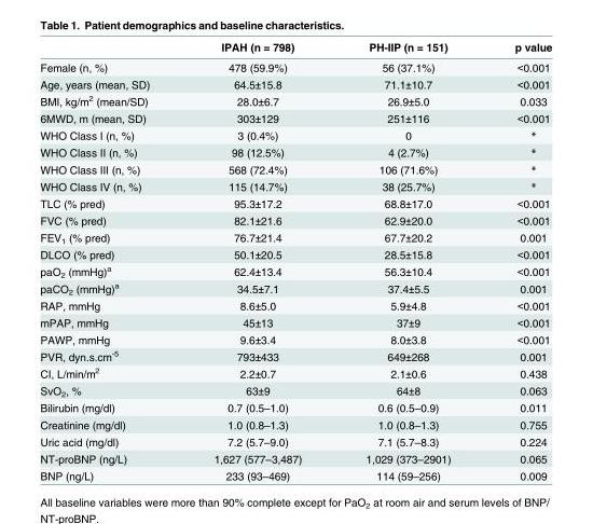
<table><thead><tr><td></td><td>IPAH (n = 798)</td><td>PH-IIP (n = 151)</td><td>p value</td></tr></thead><tbody><tr><td>Female (n, %)</td><td>478 (59.9%)</td><td>56 (37.1%)</td><td>&lt;0.001</td></tr><tr><td>Age, years (mean, SD)</td><td>64.5±15.8</td><td>71.1±10.7</td><td>&lt;0.001</td></tr><tr><td>BMI, kg/m<sup>2</sup> (mean/SD)</td><td>28.0±6.7</td><td>26.9±5.0</td><td>0.033</td></tr><tr><td>6MWD, m (mean, SD)</td><td>303±129</td><td>251±116</td><td>&lt;0.001</td></tr><tr><td>WHO Class I (n, %)</td><td>3 (0.4%)</td><td>0</td><td>*</td></tr><tr><td>WHO Class II (n, %)</td><td>98 (12.5%)</td><td>4 (2.7%)</td><td>*</td></tr><tr><td>WHO Class III (n, %)</td><td>568 (72.4%)</td><td>106 (71.6%)</td><td>*</td></tr><tr><td>WHO Class IV (n, %)</td><td>115 (14.7%)</td><td>38 (25.7%)</td><td>*</td></tr><tr><td>TLC (% pred)</td><td>95.3±17.2</td><td>68.8±17.0</td><td>&lt;0.001</td></tr><tr><td>FVC (% pred)</td><td>82.1±21.6</td><td>62.9±20.0</td><td>&lt;0.001</td></tr><tr><td>FEV<sub>1</sub> (% pred)</td><td>76.7±21.4</td><td>67.7±20.2</td><td>0.001</td></tr><tr><td>DLCO (% pred)</td><td>50.1±20.5</td><td>28.5±15.8</td><td>&lt;0.001</td></tr><tr><td>paO<sub>2</sub> (mmHg)<sup>a</sup></td><td>62.4±13.4</td><td>56.3±10.4</td><td>&lt;0.001</td></tr><tr><td>paCO<sub>2</sub> (mmHg)<sup>a</sup></td><td>34.5±7.1</td><td>37.4±5.5</td><td>0.001</td></tr><tr><td>RAP, mmHg</td><td>8.6±5.0</td><td>5.9±4.8</td><td>&lt;0.001</td></tr><tr><td>mPAP, mmHg</td><td>45±13</td><td>37±9</td><td>&lt;0.001</td></tr><tr><td>PAWP, mmHg</td><td>9.6±3.4</td><td>8.0±3.8</td><td>&lt;0.001</td></tr><tr><td>PVR, dyn.s.cm<sup>-5</sup></td><td>793±433</td><td>649±268</td><td>0.001</td></tr><tr><td>CI, L/min/m<sup>2</sup></td><td>2.2±0.7</td><td>2.1±0.6</td><td>0.438</td></tr><tr><td>SvO<sub>2</sub>, %</td><td>63±9</td><td>64±8</td><td>0.063</td></tr><tr><td>Bilirubin (mg/dl)</td><td>0.7 (0.5–1.0)</td><td>0.6 (0.5–0.9)</td><td>0.011</td></tr><tr><td>Creatinine (mg/dl)</td><td>1.0 (0.8–1.3)</td><td>1.0 (0.8–1.3)</td><td>0.755</td></tr><tr><td>Uric acid (mg/dl)</td><td>7.2 (5.7–9.0)</td><td>7.1 (5.7–8.3)</td><td>0.224</td></tr><tr><td>NT-proBNP (ng/L)</td><td>1,627 (577–3,487)</td><td>1,029 (373–2901)</td><td>0.065</td></tr><tr><td>BNP (ng/L)</td><td>233 (93–469)</td><td>114 (59–256)</td><td>0.009</td></tr></tbody></table>